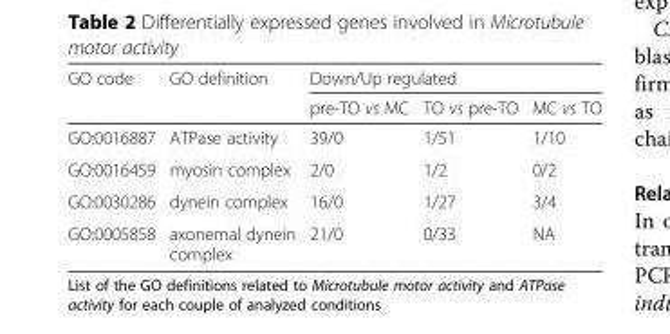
<table><thead><tr><td rowspan="2">GO code</td><td rowspan="2">GO definition</td><td colspan="3">Down/Up regulated</td></tr><tr><td>pre-TO vs MC</td><td>TO vs pre-TO</td><td>MC vs TO</td></tr></thead><tbody><tr><td>GO:0016887</td><td>ATPase activity</td><td>39/0</td><td>1/51</td><td>1/10</td></tr><tr><td>GO:0016459</td><td>myosin complex</td><td>2/0</td><td>1/2</td><td>0/2</td></tr><tr><td>GO:0030286</td><td>dynein complex</td><td>16/0</td><td>1/27</td><td>3/4</td></tr><tr><td>GO:0005858</td><td>axonemal dynein complex</td><td>21/0</td><td>0/33</td><td>NA</td></tr></tbody></table>